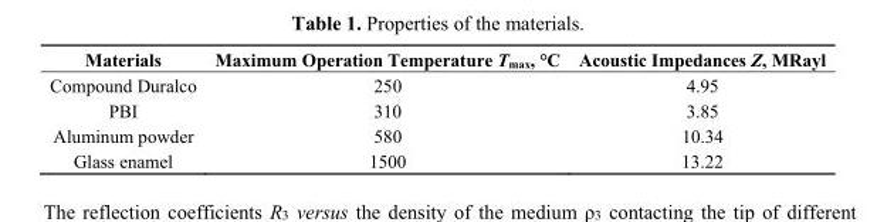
<table><thead><tr><td>Materials</td><td>Maximum Operation Temperature T<sub>max</sub>, °C</td><td>Acoustic Impedances Z, MRayl</td></tr></thead><tbody><tr><td>Compound Duralco</td><td>250</td><td>4.95</td></tr><tr><td>PBI</td><td>310</td><td>3.85</td></tr><tr><td>Aluminum powder</td><td>580</td><td>10.34</td></tr><tr><td>Glass enamel</td><td>1500</td><td>13.22</td></tr></tbody></table>